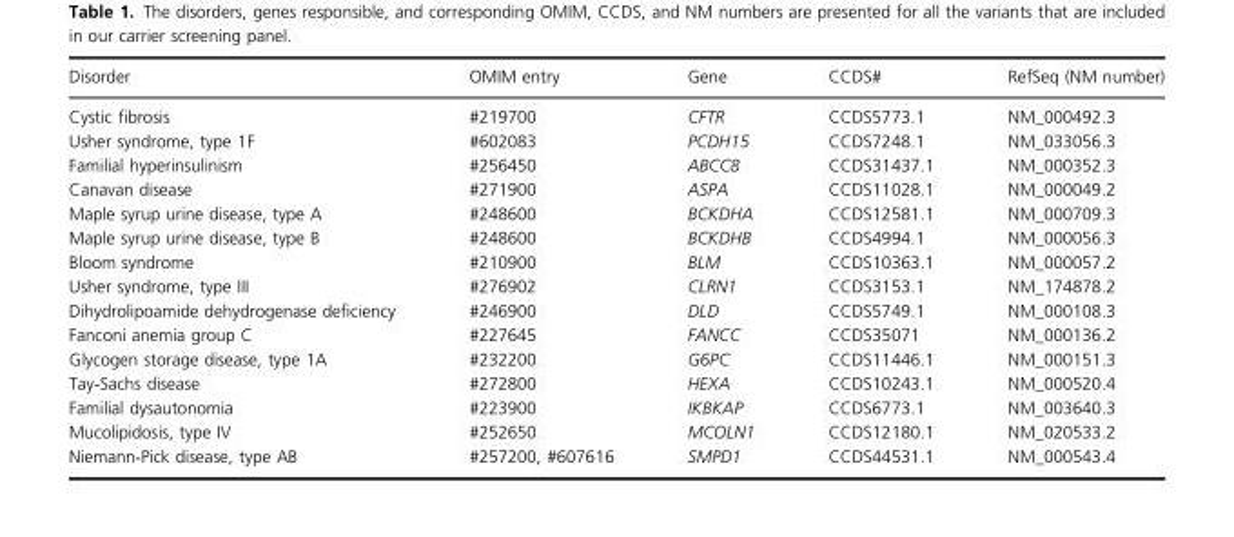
<table><thead><tr><td>Disorder</td><td>OMIM entry</td><td>Gene</td><td>CCDS#</td><td>RefSeq (NM number)</td></tr></thead><tbody><tr><td>Cystic fibrosis</td><td>#219700</td><td>CFTR</td><td>CCDS5773.1</td><td>NM_000492.3</td></tr><tr><td>Usher syndrome, type 1F</td><td>#602083</td><td>PCDH15</td><td>CCDS7248.1</td><td>NM_033056.3</td></tr><tr><td>Familial hyperinsulinism</td><td>#256450</td><td>ABCC8</td><td>CCDS31437.1</td><td>NM_000352.3</td></tr><tr><td>Canavan disease</td><td>#271900</td><td>ASPA</td><td>CCDS11028.1</td><td>NM_000049.2</td></tr><tr><td>Maple syrup urine disease, type A</td><td>#248600</td><td>BCKDHA</td><td>CCDS12581.1</td><td>NM_000709.3</td></tr><tr><td>Maple syrup urine disease, type B</td><td>#248600</td><td>BCKDHB</td><td>CCDS4994.1</td><td>NM_000056.3</td></tr><tr><td>Bloom syndrome</td><td>#210900</td><td>BLM</td><td>CCDS10363.1</td><td>NM_000057.2</td></tr><tr><td>Usher syndrome, type III</td><td>#276902</td><td>CLRN1</td><td>CCDS3153.1</td><td>NM_174878.2</td></tr><tr><td>Dihydrolipoamide dehydrogenase deficiency</td><td>#246900</td><td>DLD</td><td>CCDS5749.1</td><td>NM_000108.3</td></tr><tr><td>Fanconi anemia group C</td><td>#227645</td><td>FANCC</td><td>CCDS35071</td><td>NM_000136.2</td></tr><tr><td>Glycogen storage disease, type 1A</td><td>#232200</td><td>G6PC</td><td>CCDS11446.1</td><td>NM_000151.3</td></tr><tr><td>Tay-Sachs disease</td><td>#272800</td><td>HEXA</td><td>CCDS10243.1</td><td>NM_000520.4</td></tr><tr><td>Familial dysautonomia</td><td>#223900</td><td>IKBKAP</td><td>CCDS6773.1</td><td>NM_003640.3</td></tr><tr><td>Mucolipidosis, type IV</td><td>#252650</td><td>MCOLN1</td><td>CCDS12180.1</td><td>NM_020533.2</td></tr><tr><td>Niemann-Pick disease, type AB</td><td>#257200, #607616</td><td>SMPD1</td><td>CCDS44531.1</td><td>NM_000543.4</td></tr></tbody></table>